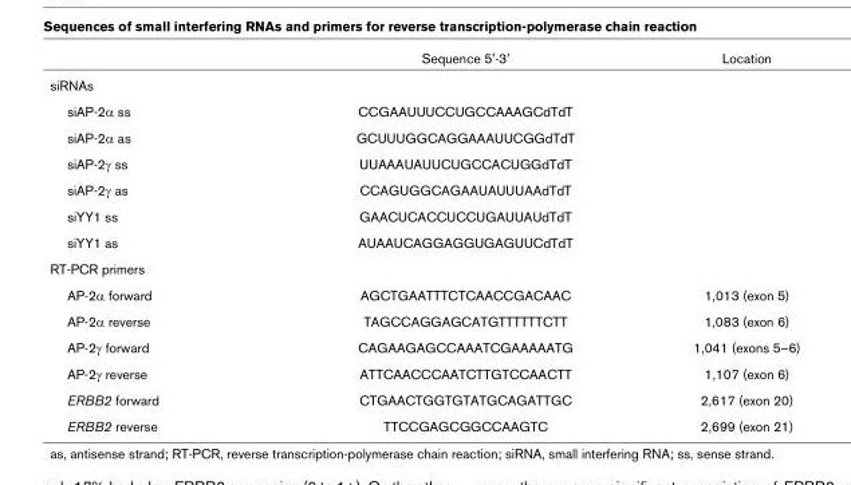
<table><thead><tr><td></td><td>Sequence 5&#x27;-3&#x27;</td><td>Location</td></tr></thead><tbody><tr><td colspan="3">siRNAs</td></tr><tr><td>siAP-2α ss</td><td>CCGAAUUUCCUGCCAAAGCdTdT</td><td></td></tr><tr><td>siAP-2α as</td><td>GCUUUGGCAGGAAAUUCGGdTdT</td><td></td></tr><tr><td>siAP-2γ ss</td><td>UUAAAUAUUCUGCCACUGGdTdT</td><td></td></tr><tr><td>siAP-2γ as</td><td>CCAGUGGCAGAAUAUUUAAdTdT</td><td></td></tr><tr><td>siYY1 ss</td><td>GAACUCACCUCCUGAUUAUdTdT</td><td></td></tr><tr><td>siYY1 as</td><td>AUAAUCAGGAGGUGAGUUCdTdT</td><td></td></tr><tr><td colspan="3">RT-PCR primers</td></tr><tr><td>AP-2α forward</td><td>AGCTGAATTTCTCAACCGACAAC</td><td>1,013 (exon 5)</td></tr><tr><td>AP-2α reverse</td><td>TAGCCAGGAGCATGTTTTTTCTT</td><td>1,083 (exon 6)</td></tr><tr><td>AP-2γ forward</td><td>CAGAAGAGCCAAATCGAAAAATG</td><td>1,041 (exons 5–6)</td></tr><tr><td>AP-2γ reverse</td><td>ATTCAACCCAATCTTGTCCAACTT</td><td>1,107 (exon 6)</td></tr><tr><td>ERBB2 forward</td><td>CTGAACTGGTGTATGCAGATTGC</td><td>2,617 (exon 20)</td></tr><tr><td>ERBB2 reverse</td><td>TTCCGAGCGGCCAAGTC</td><td>2,699 (exon 21)</td></tr></tbody></table>